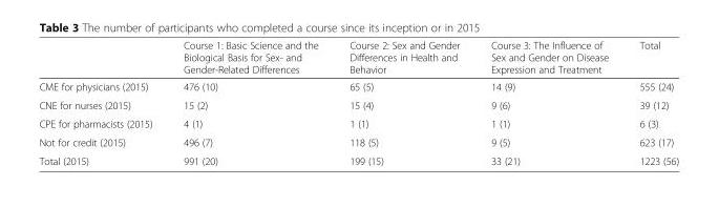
<table><thead><tr><td></td><td>Course 1: Basic Science and the Biological Basis for Sex- and Gender-Related Differences</td><td>Course 2: Sex and Gender Differences in Health and Behavior</td><td>Course 3: The Influence of Sex and Gender on Disease Expression and Treatment</td><td>Total</td></tr></thead><tbody><tr><td>CME for physicians (2015)</td><td>476 (10)</td><td>65 (5)</td><td>14 (9)</td><td>555 (24)</td></tr><tr><td>CNE for nurses (2015)</td><td>15 (2)</td><td>15 (4)</td><td>9 (6)</td><td>39 (12)</td></tr><tr><td>CPE for pharmacists (2015)</td><td>4 (1)</td><td>1 (1)</td><td>1 (1)</td><td>6 (3)</td></tr><tr><td>Not for credit (2015)</td><td>496 (7)</td><td>118 (5)</td><td>9 (5)</td><td>623 (17)</td></tr><tr><td>Total (2015)</td><td>991 (20)</td><td>199 (15)</td><td>33 (21)</td><td>1223 (56)</td></tr></tbody></table>